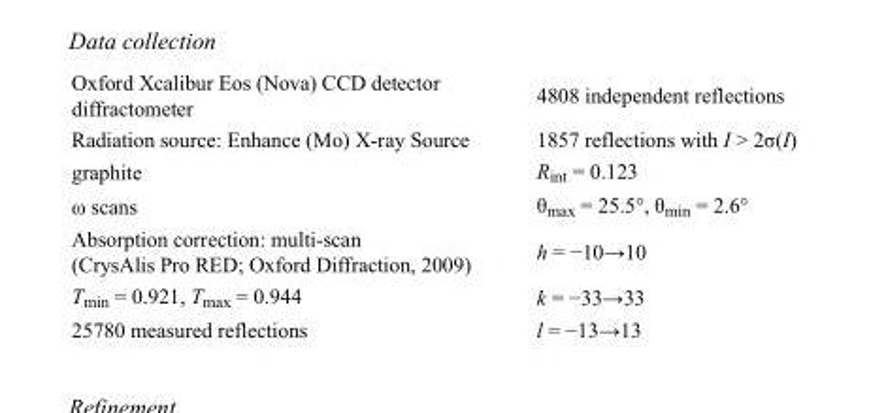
<table><tbody><tr><td>Oxford Xcalibur Eos (Nova) CCD detector diffractometer</td><td>4808 independent reflections</td></tr><tr><td>Radiation source: Enhance (Mo) X-ray Source</td><td>1857 reflections with I &gt; 2σ(I)</td></tr><tr><td>graphite</td><td>R<sub>int</sub> = 0.123</td></tr><tr><td>ω scans</td><td>θ<sub>max</sub> = 25.5°, θ<sub>min</sub> = 2.6°</td></tr><tr><td>Absorption correction: multi-scan (CrysAlis Pro RED; Oxford Diffraction, 2009)</td><td>h = −10→10</td></tr><tr><td>T<sub>min</sub> = 0.921, T<sub>max</sub> = 0.944</td><td>k = −33→33</td></tr><tr><td>25780 measured reflections</td><td>l = −13→13</td></tr></tbody></table>